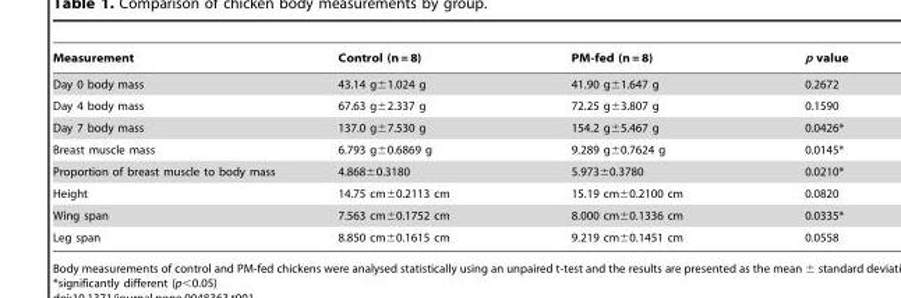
<table><thead><tr><td>Measurement</td><td>Control (n = 8)</td><td>PM-fed (n = 8)</td><td>p value</td></tr></thead><tbody><tr><td>Day 0 body mass</td><td>43.14 g±1.024 g</td><td>41.90 g±1.647 g</td><td>0.2672</td></tr><tr><td>Day 4 body mass</td><td>67.63 g±2.337 g</td><td>72.25 g±3.807 g</td><td>0.1590</td></tr><tr><td>Day 7 body mass</td><td>137.0 g±7.530 g</td><td>154.2 g±5.467 g</td><td>0.0426*</td></tr><tr><td>Breast muscle mass</td><td>6.793 g±0.6869 g</td><td>9.289 g±0.7624 g</td><td>0.0145*</td></tr><tr><td>Proportion of breast muscle to body mass</td><td>4.868±0.3180</td><td>5.973±0.3780</td><td>0.0210*</td></tr><tr><td>Height</td><td>14.75 cm±0.2113 cm</td><td>15.19 cm±0.2100 cm</td><td>0.0820</td></tr><tr><td>Wing span</td><td>7.563 cm±0.1752 cm</td><td>8.000 cm±0.1336 cm</td><td>0.0335*</td></tr><tr><td>Leg span</td><td>8.850 cm±0.1615 cm</td><td>9.219 cm±0.1451 cm</td><td>0.0558</td></tr></tbody></table>